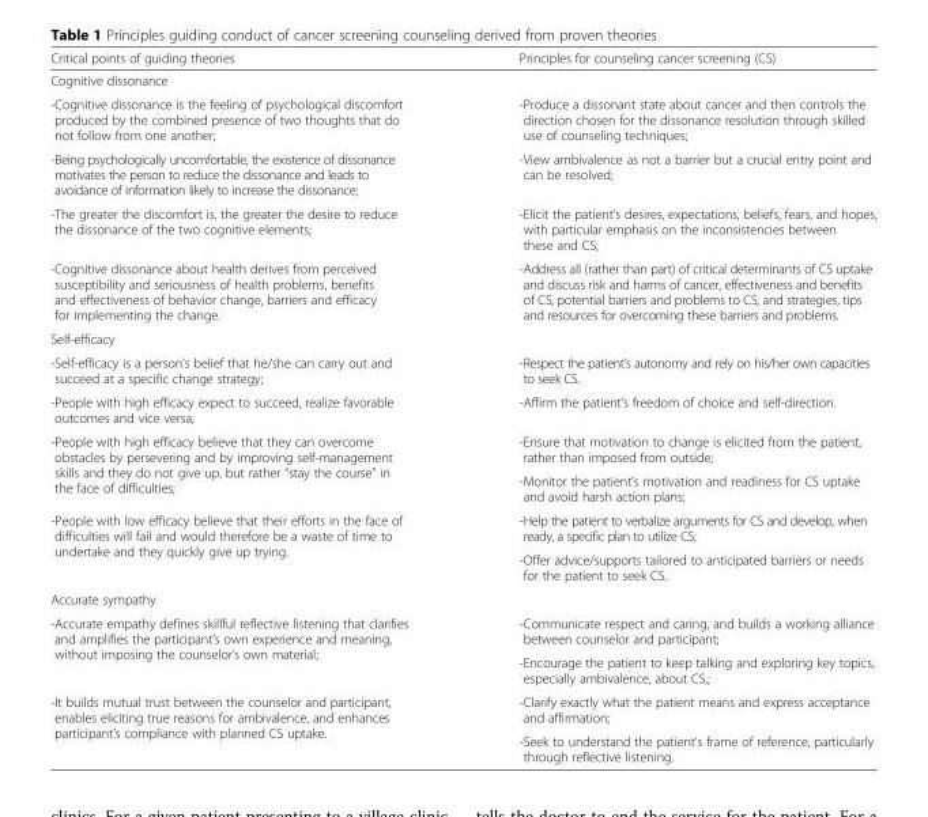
<table><thead><tr><td>Critical points of guiding theories</td><td>Principles for counseling cancer screening (CS)</td></tr></thead><tbody><tr><td colspan="2">Cognitive dissonance</td></tr><tr><td>-Cognitive dissonance is the feeling of psychological discomfort produced by the combined presence of two thoughts that do not follow from one another;</td><td>-Produce a dissonant state about cancer and then controls the direction chosen for the dissonance resolution through skilled use of counseling techniques;</td></tr><tr><td>-Being psychologically uncomfortable, the existence of dissonance motivates the person to reduce the dissonance and leads to avoidance of information likely to increase the dissonance;</td><td>-View ambivalence as not a barrier but a crucial entry point and can be resolved;</td></tr><tr><td>-The greater the discomfort is, the greater the desire to reduce the dissonance of the two cognitive elements;</td><td>-Elicit the patient’s desires, expectations, beliefs, fears, and hopes, with particular emphasis on the inconsistencies between these and CS;</td></tr><tr><td>-Cognitive dissonance about health derives from perceived susceptibility and seriousness of health problems, benefits and effectiveness of behavior change, barriers and efficacy for implementing the change.</td><td>-Address all (rather than part) of critical determinants of CS uptake and discuss risk and harms of cancer, effectiveness and benefits of CS, potential barriers and problems to CS, and strategies, tips and resources for overcoming these barriers and problems.</td></tr><tr><td colspan="2">Self-efficacy</td></tr><tr><td>-Self-efficacy is a person’s belief that he/she can carry out and succeed at a specific change strategy;</td><td>-Respect the patient’s autonomy and rely on his/her own capacities to seek CS.</td></tr><tr><td>-People with high efficacy expect to succeed, realize favorable outcomes and vice versa;</td><td>-Affirm the patient’s freedom of choice and self-direction.</td></tr><tr><td rowspan="2">-People with high efficacy believe that they can overcome obstacles by persevering and by improving self-management skills and they do not give up, but rather “stay the course” in the face of difficulties;</td><td>-Ensure that motivation to change is elicited from the patient, rather than imposed from outside;</td></tr><tr><td>-Monitor the patient’s motivation and readiness for CS uptake and avoid harsh action plans;</td></tr><tr><td rowspan="2">-People with low efficacy believe that their efforts in the face of difficulties will fail and would therefore be a waste of time to undertake and they quickly give up trying.</td><td>-Help the patient to verbalize arguments for CS and develop, when ready, a specific plan to utilize CS;</td></tr><tr><td>-Offer advice/supports tailored to anticipated barriers or needs for the patient to seek CS.</td></tr><tr><td colspan="2">Accurate sympathy</td></tr><tr><td rowspan="2">-Accurate empathy defines skillful reflective listening that clarifies and amplifies the participant’s own experience and meaning, without imposing the counselor’s own material;</td><td>-Communicate respect and caring, and builds a working alliance between counselor and participant;</td></tr><tr><td>-Encourage the patient to keep talking and exploring key topics, especially ambivalence, about CS,;</td></tr><tr><td rowspan="2">-It builds mutual trust between the counselor and participant, enables eliciting true reasons for ambivalence, and enhances participant’s compliance with planned CS uptake.</td><td>-Clarify exactly what the patient means and express acceptance and affirmation;</td></tr><tr><td>-Seek to understand the patient’s frame of reference, particularly through reflective listening.</td></tr></tbody></table>